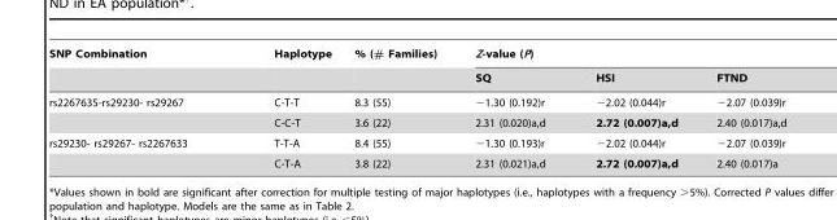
<table><thead><tr><td rowspan="2">SNP Combination</td><td rowspan="2">Haplotype</td><td rowspan="2">% (# Families)</td><td colspan="3">Z-value (P)</td></tr><tr><td>SQ</td><td>HSI</td><td>FTND</td></tr></thead><tbody><tr><td rowspan="2">rs2267635-rs29230- rs29267</td><td>C-T-T</td><td>8.3 (55)</td><td>−1.30 (0.192)r</td><td>−2.02 (0.044)r</td><td>−2.07 (0.039)r</td></tr><tr><td>C-C-T</td><td>3.6 (22)</td><td>2.31 (0.020)a,d</td><td>2.72 (0.007)a,d</td><td>2.40 (0.017)a,d</td></tr><tr><td rowspan="2">rs29230- rs29267- rs2267633</td><td>T-T-A</td><td>8.4 (55)</td><td>−1.30 (0.193)r</td><td>−2.02 (0.044)r</td><td>−2.07 (0.039)r</td></tr><tr><td>C-T-A</td><td>3.8 (22)</td><td>2.31 (0.021)a,d</td><td>2.72 (0.007)a,d</td><td>2.40 (0.017)a</td></tr></tbody></table>